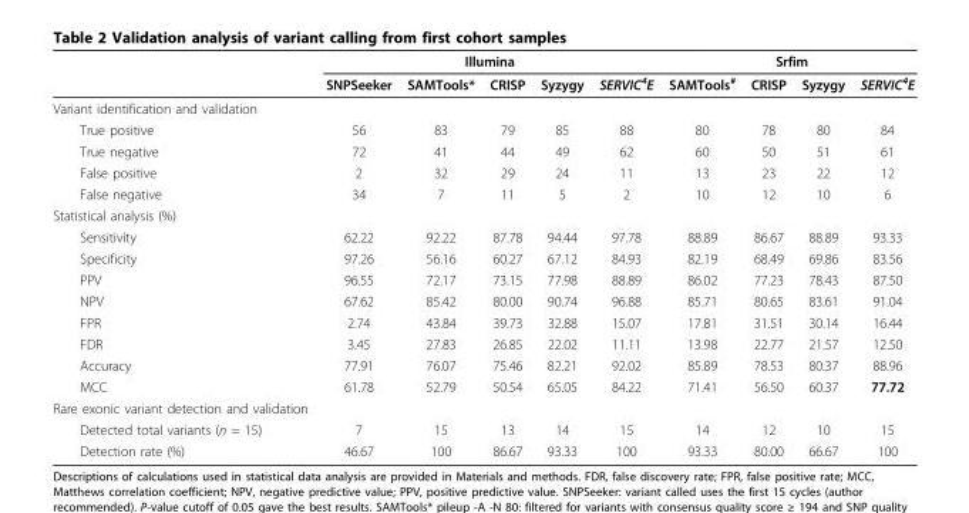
<table><thead><tr><td rowspan="2"></td><td colspan="5">Illumina</td><td colspan="4">Srfim</td></tr><tr><td>SNPSeeker</td><td>SAMTools*</td><td>CRISP</td><td>Syzygy</td><td>SERVIC<sup>4</sup>E</td><td>SAMTools<sup>#</sup></td><td>CRISP</td><td>Syzygy</td><td>SERVIC<sup>4</sup>E</td></tr></thead><tbody><tr><td colspan="10">Variant identification and validation</td></tr><tr><td>True positive</td><td>56</td><td>83</td><td>79</td><td>85</td><td>88</td><td>80</td><td>78</td><td>80</td><td>84</td></tr><tr><td>True negative</td><td>72</td><td>41</td><td>44</td><td>49</td><td>62</td><td>60</td><td>50</td><td>51</td><td>61</td></tr><tr><td>False positive</td><td>2</td><td>32</td><td>29</td><td>24</td><td>11</td><td>13</td><td>23</td><td>22</td><td>12</td></tr><tr><td>False negative</td><td>34</td><td>7</td><td>11</td><td>5</td><td>2</td><td>10</td><td>12</td><td>10</td><td>6</td></tr><tr><td colspan="10">Statistical analysis (%)</td></tr><tr><td>Sensitivity</td><td>62.22</td><td>92.22</td><td>87.78</td><td>94.44</td><td>97.78</td><td>88.89</td><td>86.67</td><td>88.89</td><td>93.33</td></tr><tr><td>Specificity</td><td>97.26</td><td>56.16</td><td>60.27</td><td>67.12</td><td>84.93</td><td>82.19</td><td>68.49</td><td>69.86</td><td>83.56</td></tr><tr><td>PPV</td><td>96.55</td><td>72.17</td><td>73.15</td><td>77.98</td><td>88.89</td><td>86.02</td><td>77.23</td><td>78.43</td><td>87.50</td></tr><tr><td>NPV</td><td>67.62</td><td>85.42</td><td>80.00</td><td>90.74</td><td>96.88</td><td>85.71</td><td>80.65</td><td>83.61</td><td>91.04</td></tr><tr><td>FPR</td><td>2.74</td><td>43.84</td><td>39.73</td><td>32.88</td><td>15.07</td><td>17.81</td><td>31.51</td><td>30.14</td><td>16.44</td></tr><tr><td>FDR</td><td>3.45</td><td>27.83</td><td>26.85</td><td>22.02</td><td>11.11</td><td>13.98</td><td>22.77</td><td>21.57</td><td>12.50</td></tr><tr><td>Accuracy</td><td>77.91</td><td>76.07</td><td>75.46</td><td>82.21</td><td>92.02</td><td>85.89</td><td>78.53</td><td>80.37</td><td>88.96</td></tr><tr><td>MCC</td><td>61.78</td><td>52.79</td><td>50.54</td><td>65.05</td><td>84.22</td><td>71.41</td><td>56.50</td><td>60.37</td><td>77.72</td></tr><tr><td colspan="10">Rare exonic variant detection and validation</td></tr><tr><td>Detected total variants (n = 15)</td><td>7</td><td>15</td><td>13</td><td>14</td><td>15</td><td>14</td><td>12</td><td>10</td><td>15</td></tr><tr><td>Detection rate (%)</td><td>46.67</td><td>100</td><td>86.67</td><td>93.33</td><td>100</td><td>93.33</td><td>80.00</td><td>66.67</td><td>100</td></tr></tbody></table>